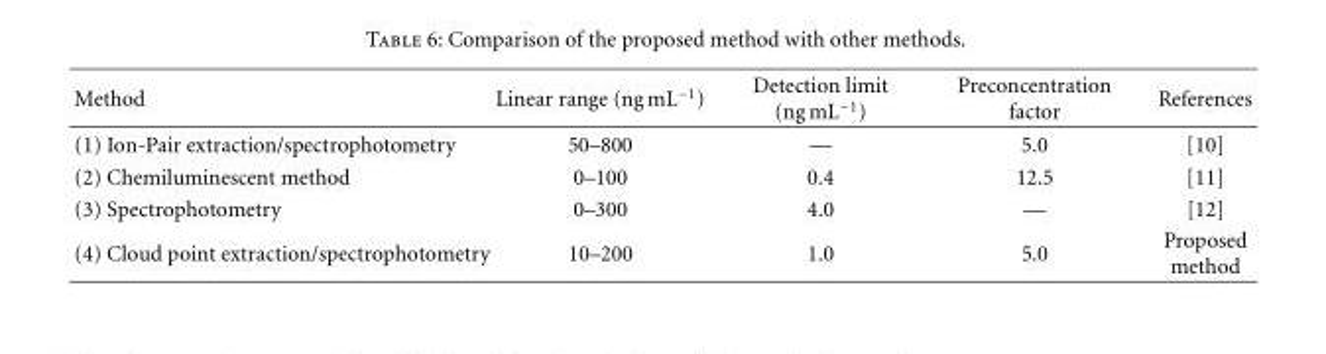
<table><thead><tr><td>Method</td><td>Linear range (ng mL<sup>−1</sup>)</td><td>Detection limit (ng mL<sup>−1</sup>)</td><td>Preconcentration factor</td><td>References</td></tr></thead><tbody><tr><td>(1) Ion-Pair extraction/spectrophotometry</td><td>50–800</td><td>—</td><td>5.0</td><td>[10]</td></tr><tr><td>(2) Chemiluminescent method</td><td>0–100</td><td>0.4</td><td>12.5</td><td>[11]</td></tr><tr><td>(3) Spectrophotometry</td><td>0–300</td><td>4.0</td><td>—</td><td>[12]</td></tr><tr><td>(4) Cloud point extraction/spectrophotometry</td><td>10–200</td><td>1.0</td><td>5.0</td><td>Proposed method</td></tr></tbody></table>